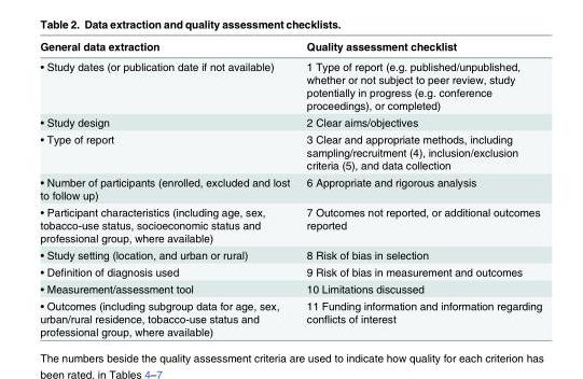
<table><thead><tr><td>General data extraction</td><td>Quality assessment checklist</td></tr></thead><tbody><tr><td>• Study dates (or publication date if not available)</td><td>1 Type of report (e.g. published/unpublished, whether or not subject to peer review, study potentially in progress (e.g. conference proceedings), or completed)</td></tr><tr><td>• Study design</td><td>2 Clear aims/objectives</td></tr><tr><td>• Type of report</td><td>3 Clear and appropriate methods, including sampling/recruitment (4), inclusion/exclusion criteria (5), and data collection</td></tr><tr><td>• Number of participants (enrolled, excluded and lost to follow up)</td><td>6 Appropriate and rigorous analysis</td></tr><tr><td>• Participant characteristics (including age, sex, tobacco-use status, socioeconomic status and professional group, where available)</td><td>7 Outcomes not reported, or additional outcomes reported</td></tr><tr><td>• Study setting (location, and urban or rural)</td><td>8 Risk of bias in selection</td></tr><tr><td>• Definition of diagnosis used</td><td>9 Risk of bias in measurement and outcomes</td></tr><tr><td>• Measurement/assessment tool</td><td>10 Limitations discussed</td></tr><tr><td>• Outcomes (including subgroup data for age, sex, urban/rural residence, tobacco-use status and professional group, where available)</td><td>11 Funding information and information regarding conflicts of interest</td></tr></tbody></table>